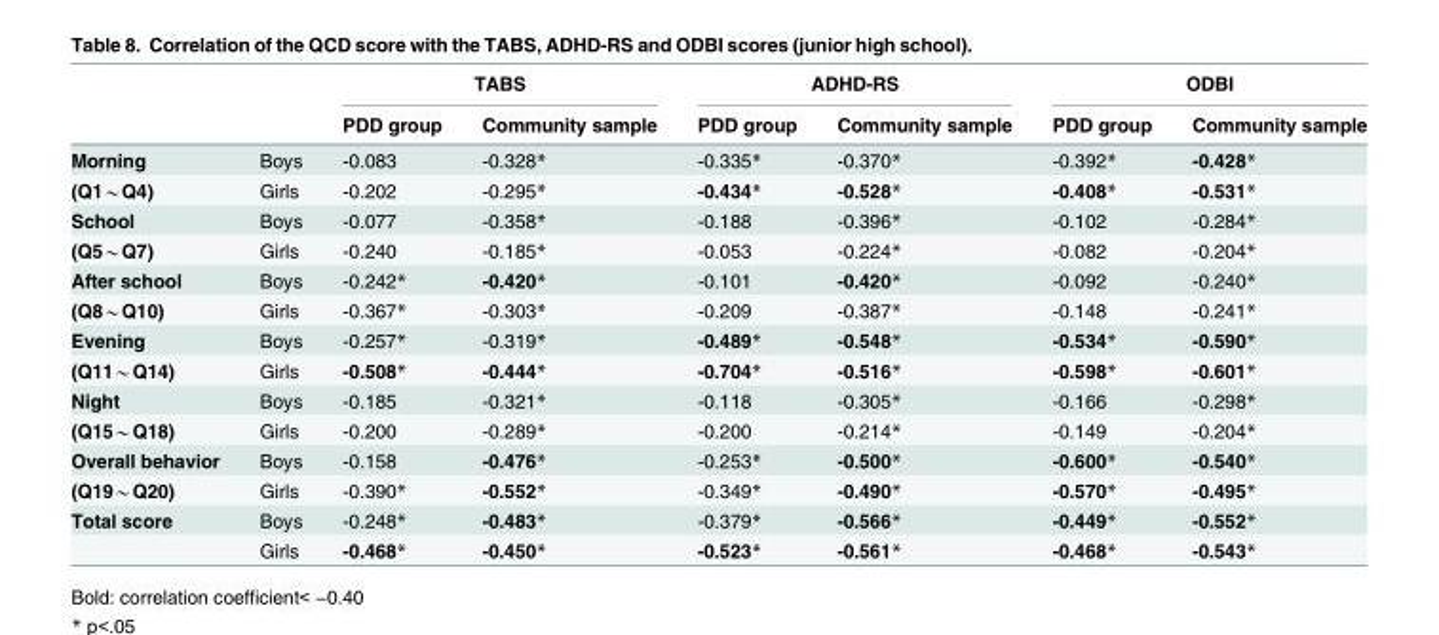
<table><thead><tr><td rowspan="2"></td><td rowspan="2"></td><td colspan="2">TABS</td><td colspan="2">ADHD-RS</td><td colspan="2">ODBI</td></tr><tr><td>PDD group</td><td>Community sample</td><td>PDD group</td><td>Community sample</td><td>PDD group</td><td>Community sample</td></tr></thead><tbody><tr><td>Morning</td><td>Boys</td><td>-0.083</td><td>-0.328*</td><td>-0.335*</td><td>-0.370*</td><td>-0.392*</td><td>-0.428*</td></tr><tr><td>(Q1*Q4)</td><td>Girls</td><td>-0.202</td><td>-0.295*</td><td>-0.434*</td><td>-0.528*</td><td>-0.408*</td><td>-0.531*</td></tr><tr><td>School</td><td>Boys</td><td>-0.077</td><td>-0.358*</td><td>-0.188</td><td>-0.396*</td><td>-0.102</td><td>-0.284*</td></tr><tr><td>(Q5*Q7)</td><td>Girls</td><td>-0.240</td><td>-0.185*</td><td>-0.053</td><td>-0.224*</td><td>-0.082</td><td>-0.204*</td></tr><tr><td>After school</td><td>Boys</td><td>-0.242*</td><td>-0.420*</td><td>-0.101</td><td>-0.420*</td><td>-0.092</td><td>-0.240*</td></tr><tr><td>(Q8*Q10)</td><td>Girls</td><td>-0.367*</td><td>-0.303*</td><td>-0.209</td><td>-0.387*</td><td>-0.148</td><td>-0.241*</td></tr><tr><td>Evening</td><td>Boys</td><td>-0.257*</td><td>-0.319*</td><td>-0.489*</td><td>-0.548*</td><td>-0.534*</td><td>-0.590*</td></tr><tr><td>(Q11*Q14)</td><td>Girls</td><td>-0.508*</td><td>-0.444*</td><td>-0.704*</td><td>-0.516*</td><td>-0.598*</td><td>-0.601*</td></tr><tr><td>Night</td><td>Boys</td><td>-0.185</td><td>-0.321*</td><td>-0.118</td><td>-0.305*</td><td>-0.166</td><td>-0.298*</td></tr><tr><td>(Q15*Q18)</td><td>Girls</td><td>-0.200</td><td>-0.289*</td><td>-0.200</td><td>-0.214*</td><td>-0.149</td><td>-0.204*</td></tr><tr><td>Overall behavior</td><td>Boys</td><td>-0.158</td><td>-0.476*</td><td>-0.253*</td><td>-0.500*</td><td>-0.600*</td><td>-0.540*</td></tr><tr><td>(Q19*Q20)</td><td>Girls</td><td>-0.390*</td><td>-0.552*</td><td>-0.349*</td><td>-0.490*</td><td>-0.570*</td><td>-0.495*</td></tr><tr><td rowspan="2">Total score</td><td>Boys</td><td>-0.248*</td><td>-0.483*</td><td>-0.379*</td><td>-0.566*</td><td>-0.449*</td><td>-0.552*</td></tr><tr><td>Girls</td><td>-0.468*</td><td>-0.450*</td><td>-0.523*</td><td>-0.561*</td><td>-0.468*</td><td>-0.543*</td></tr></tbody></table>